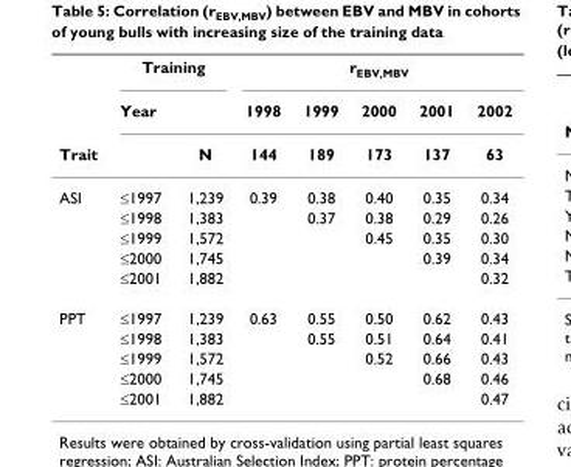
<table><thead><tr><td rowspan="3">Trait</td><td colspan="2">Training</td><td colspan="5">r<sub>EBV,MBV</sub></td></tr><tr><td rowspan="2">Year</td><td rowspan="2">N</td><td rowspan="2">1998 144</td><td rowspan="2">1999 189</td><td rowspan="2">2000 173</td><td rowspan="2">2001 137</td><td rowspan="2">2002 63</td></tr><tr></tr></thead><tbody><tr><td rowspan="5">ASI</td><td>≤1997</td><td>1,239</td><td>0.39</td><td>0.38</td><td>0.40</td><td>0.35</td><td>0.34</td></tr><tr><td>≤1998</td><td>1,383</td><td></td><td>0.37</td><td>0.38</td><td>0.29</td><td>0.26</td></tr><tr><td>≤1999</td><td>1,572</td><td></td><td></td><td>0.45</td><td>0.35</td><td>0.30</td></tr><tr><td>≤2000</td><td>1,745</td><td></td><td></td><td></td><td>0.39</td><td>0.34</td></tr><tr><td>≤2001</td><td>1,882</td><td></td><td></td><td></td><td></td><td>0.32</td></tr><tr><td rowspan="5">PPT</td><td>≤1997</td><td>1,239</td><td>0.63</td><td>0.55</td><td>0.50</td><td>0.62</td><td>0.43</td></tr><tr><td>≤1998</td><td>1,383</td><td></td><td>0.55</td><td>0.51</td><td>0.64</td><td>0.41</td></tr><tr><td>≤1999</td><td>1,572</td><td></td><td></td><td>0.52</td><td>0.66</td><td>0.43</td></tr><tr><td>≤2000</td><td>1,745</td><td></td><td></td><td></td><td>0.68</td><td>0.46</td></tr><tr><td>≤2001</td><td>1,882</td><td></td><td></td><td></td><td></td><td>0.47</td></tr></tbody></table>